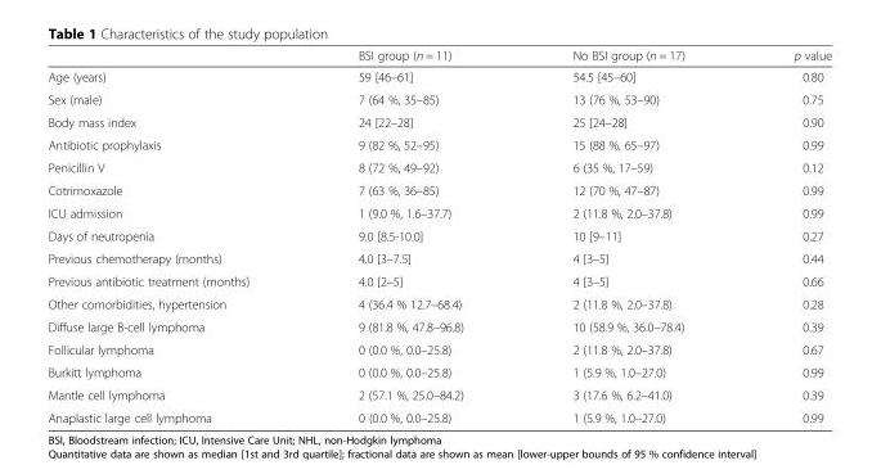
<table><thead><tr><td></td><td>BSI group (n = 11)</td><td>No BSI group (n = 17)</td><td>p value</td></tr></thead><tbody><tr><td>Age (years)</td><td>59 [46–61]</td><td>54.5 [45–60]</td><td>0.80</td></tr><tr><td>Sex (male)</td><td>7 (64 %, 35–85)</td><td>13 (76 %, 53–90)</td><td>0.75</td></tr><tr><td>Body mass index</td><td>24 [22–28]</td><td>25 [24–28]</td><td>0.90</td></tr><tr><td>Antibiotic prophylaxis</td><td>9 (82 %, 52–95)</td><td>15 (88 %, 65–97)</td><td>0.99</td></tr><tr><td>Penicillin V</td><td>8 (72 %, 49–92)</td><td>6 (35 %, 17–59)</td><td>0.12</td></tr><tr><td>Cotrimoxazole</td><td>7 (63 %, 36–85)</td><td>12 (70 %, 47–87)</td><td>0.99</td></tr><tr><td>ICU admission</td><td>1 (9.0 %, 1.6–37.7)</td><td>2 (11.8 %, 2.0–37.8)</td><td>0.99</td></tr><tr><td>Days of neutropenia</td><td>9.0 [8.5-10.0]</td><td>10 [9–11]</td><td>0.27</td></tr><tr><td>Previous chemotherapy (months)</td><td>4.0 [3–7.5]</td><td>4 [3–5]</td><td>0.44</td></tr><tr><td>Previous antibiotic treatment (months)</td><td>4.0 [2–5]</td><td>4 [3–5]</td><td>0.66</td></tr><tr><td>Other comorbidities, hypertension</td><td>4 (36.4 % 12.7–68.4)</td><td>2 (11.8 %, 2.0–37.8)</td><td>0.28</td></tr><tr><td>Diffuse large B-cell lymphoma</td><td>9 (81.8 %, 47.8–96.8)</td><td>10 (58.9 %, 36.0–78.4)</td><td>0.39</td></tr><tr><td>Follicular lymphoma</td><td>0 (0.0 %, 0.0–25.8)</td><td>2 (11.8 %, 2.0–37.8)</td><td>0.67</td></tr><tr><td>Burkitt lymphoma</td><td>0 (0.0 %, 0.0–25.8)</td><td>1 (5.9 %, 1.0–27.0)</td><td>0.99</td></tr><tr><td>Mantle cell lymphoma</td><td>2 (57.1 %, 25.0–84.2)</td><td>3 (17.6 %, 6.2–41.0)</td><td>0.39</td></tr><tr><td>Anaplastic large cell lymphoma</td><td>0 (0.0 %, 0.0–25.8)</td><td>1 (5.9 %, 1.0–27.0)</td><td>0.99</td></tr></tbody></table>